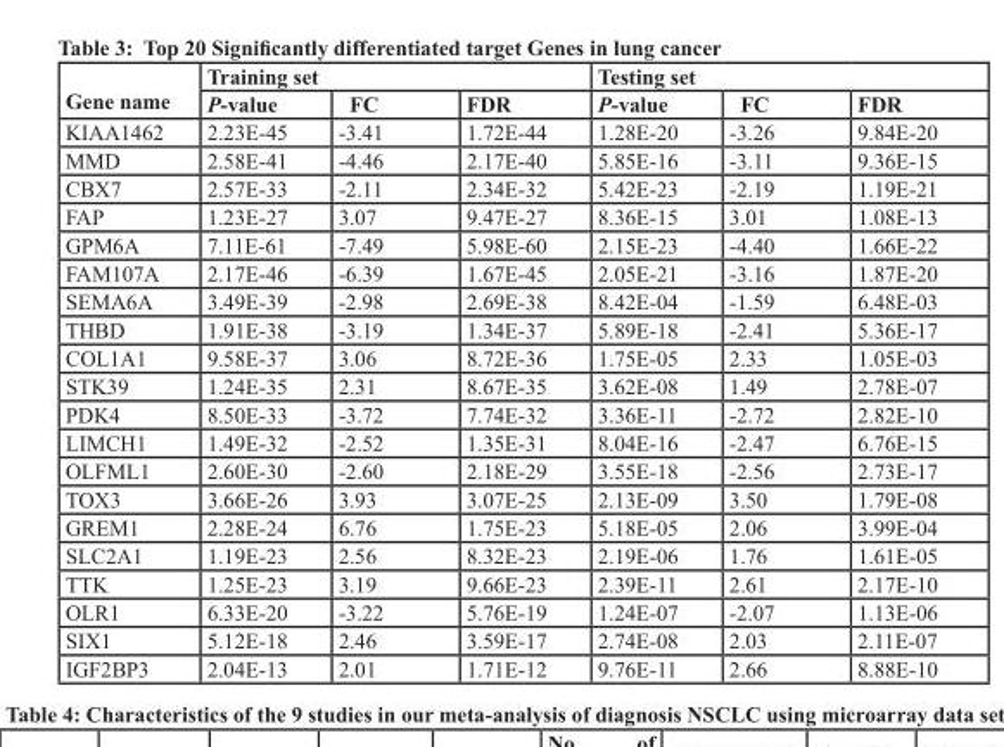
<table><thead><tr><td rowspan="2">Gene name</td><td colspan="3">Training set</td><td colspan="3">Testing set</td></tr><tr><td>P-value</td><td>FC</td><td>FDR</td><td>P-value</td><td>FC</td><td>FDR</td></tr></thead><tbody><tr><td>KIAA1462</td><td>2.23E-45</td><td>-3.41</td><td>1.72E-44</td><td>1.28E-20</td><td>-3.26</td><td>9.84E-20</td></tr><tr><td>MMD</td><td>2.58E-41</td><td>-4.46</td><td>2.17E-40</td><td>5.85E-16</td><td>-3.11</td><td>9.36E-15</td></tr><tr><td>CBX7</td><td>2.57E-33</td><td>-2.11</td><td>2.34E-32</td><td>5.42E-23</td><td>-2.19</td><td>1.19E-21</td></tr><tr><td>FAP</td><td>1.23E-27</td><td>3.07</td><td>9.47E-27</td><td>8.36E-15</td><td>3.01</td><td>1.08E-13</td></tr><tr><td>GPM6A</td><td>7.11E-61</td><td>-7.49</td><td>5.98E-60</td><td>2.15E-23</td><td>-4.40</td><td>1.66E-22</td></tr><tr><td>FAM107A</td><td>2.17E-46</td><td>-6.39</td><td>1.67E-45</td><td>2.05E-21</td><td>-3.16</td><td>1.87E-20</td></tr><tr><td>SEMA6A</td><td>3.49E-39</td><td>-2.98</td><td>2.69E-38</td><td>8.42E-04</td><td>-1.59</td><td>6.48E-03</td></tr><tr><td>THBD</td><td>1.91E-38</td><td>-3.19</td><td>1.34E-37</td><td>5.89E-18</td><td>-2.41</td><td>5.36E-17</td></tr><tr><td>COL1A1</td><td>9.58E-37</td><td>3.06</td><td>8.72E-36</td><td>1.75E-05</td><td>2.33</td><td>1.05E-03</td></tr><tr><td>STK39</td><td>1.24E-35</td><td>2.31</td><td>8.67E-35</td><td>3.62E-08</td><td>1.49</td><td>2.78E-07</td></tr><tr><td>PDK4</td><td>8.50E-33</td><td>-3.72</td><td>7.74E-32</td><td>3.36E-11</td><td>-2.72</td><td>2.82E-10</td></tr><tr><td>LIMCH1</td><td>1.49E-32</td><td>-2.52</td><td>1.35E-31</td><td>8.04E-16</td><td>-2.47</td><td>6.76E-15</td></tr><tr><td>OLFML1</td><td>2.60E-30</td><td>-2.60</td><td>2.18E-29</td><td>3.55E-18</td><td>-2.56</td><td>2.73E-17</td></tr><tr><td>TOX3</td><td>3.66E-26</td><td>3.93</td><td>3.07E-25</td><td>2.13E-09</td><td>3.50</td><td>1.79E-08</td></tr><tr><td>GREM1</td><td>2.28E-24</td><td>6.76</td><td>1.75E-23</td><td>5.18E-05</td><td>2.06</td><td>3.99E-04</td></tr><tr><td>SLC2A1</td><td>1.19E-23</td><td>2.56</td><td>8.32E-23</td><td>2.19E-06</td><td>1.76</td><td>1.61E-05</td></tr><tr><td>TTK</td><td>1.25E-23</td><td>3.19</td><td>9.66E-23</td><td>2.39E-11</td><td>2.61</td><td>2.17E-10</td></tr><tr><td>OLR1</td><td>6.33E-20</td><td>-3.22</td><td>5.76E-19</td><td>1.24E-07</td><td>-2.07</td><td>1.13E-06</td></tr><tr><td>SIX1</td><td>5.12E-18</td><td>2.46</td><td>3.59E-17</td><td>2.74E-08</td><td>2.03</td><td>2.11E-07</td></tr><tr><td>IGF2BP3</td><td>2.04E-13</td><td>2.01</td><td>1.71E-12</td><td>9.76E-11</td><td>2.66</td><td>8.88E-10</td></tr></tbody></table>